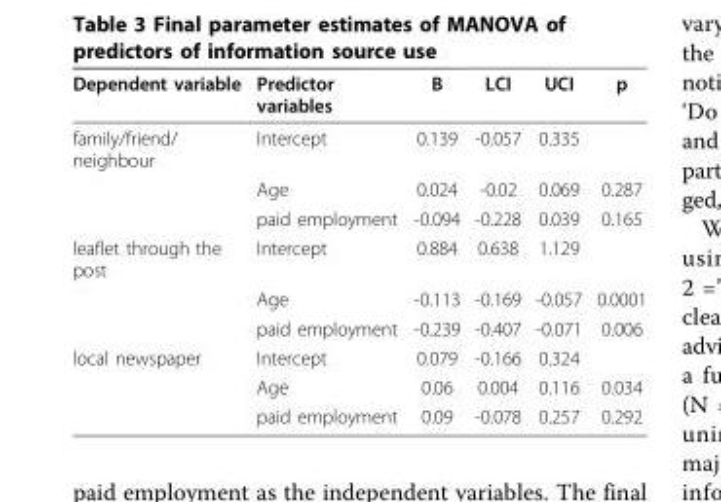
<table><thead><tr><td>Dependent variable</td><td>Predictor variables</td><td>B</td><td>LCI</td><td>UCI</td><td>p</td></tr></thead><tbody><tr><td rowspan="3">family/friend/ neighbour</td><td>Intercept</td><td>0.139</td><td>-0.057</td><td>0.335</td><td></td></tr><tr><td>Age</td><td>0.024</td><td>-0.02</td><td>0.069</td><td>0.287</td></tr><tr><td>paid employment</td><td>-0.094</td><td>-0.228</td><td>0.039</td><td>0.165</td></tr><tr><td rowspan="3">leaflet through the post</td><td>Intercept</td><td>0.884</td><td>0.638</td><td>1.129</td><td></td></tr><tr><td>Age</td><td>-0.113</td><td>-0.169</td><td>-0.057</td><td>0.0001</td></tr><tr><td>paid employment</td><td>-0.239</td><td>-0.407</td><td>-0.071</td><td>0.006</td></tr><tr><td rowspan="3">local newspaper</td><td>Intercept</td><td>0.079</td><td>-0.166</td><td>0.324</td><td></td></tr><tr><td>Age</td><td>0.06</td><td>0.004</td><td>0.116</td><td>0.034</td></tr><tr><td>paid employment</td><td>0.09</td><td>-0.078</td><td>0.257</td><td>0.292</td></tr></tbody></table>